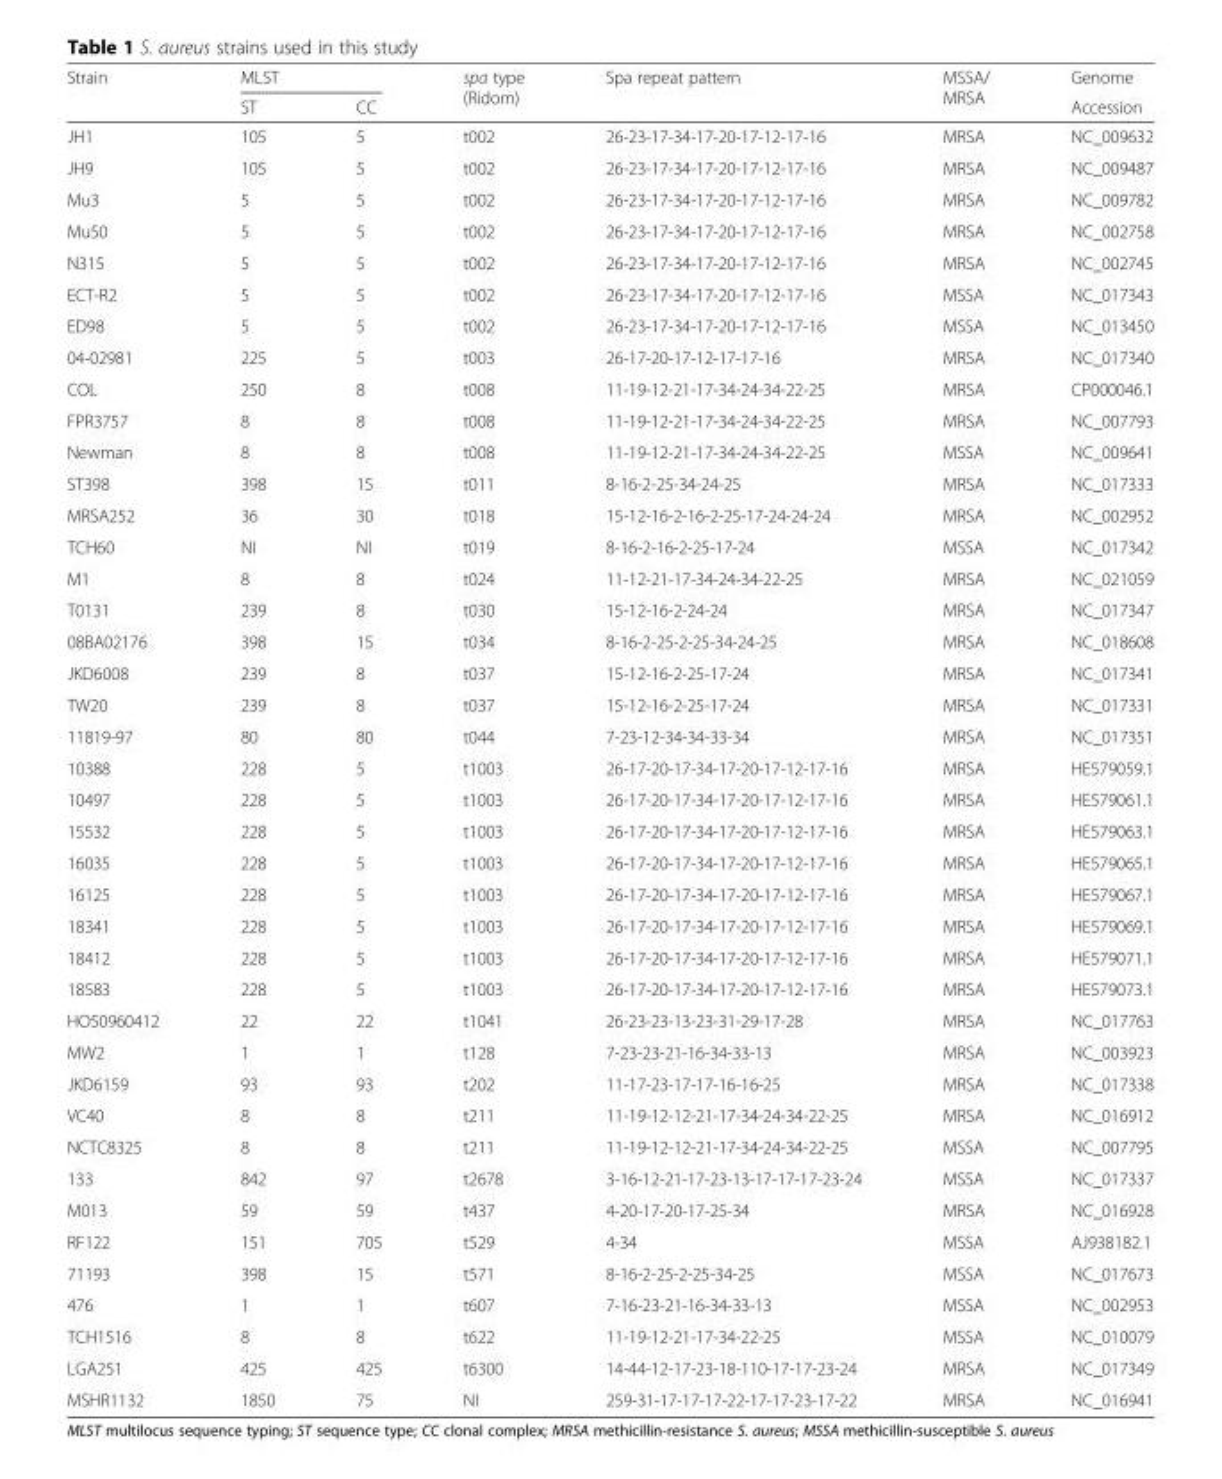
<table><thead><tr><td rowspan="2">Strain</td><td colspan="2">MLST</td><td rowspan="2">spa type (Ridom)</td><td rowspan="2">Spa repeat pattern</td><td rowspan="2">MSSA/ MRSA</td><td rowspan="2">Genome Accession</td></tr><tr><td>ST</td><td>CC</td></tr></thead><tbody><tr><td>JH1</td><td>105</td><td>5</td><td>t002</td><td>26-23-17-34-17-20-17-12-17-16</td><td>MRSA</td><td>NC_009632</td></tr><tr><td>JH9</td><td>105</td><td>5</td><td>t002</td><td>26-23-17-34-17-20-17-12-17-16</td><td>MRSA</td><td>NC_009487</td></tr><tr><td>Mu3</td><td>5</td><td>5</td><td>t002</td><td>26-23-17-34-17-20-17-12-17-16</td><td>MRSA</td><td>NC_009782</td></tr><tr><td>Mu50</td><td>5</td><td>5</td><td>t002</td><td>26-23-17-34-17-20-17-12-17-16</td><td>MRSA</td><td>NC_002758</td></tr><tr><td>N315</td><td>5</td><td>5</td><td>t002</td><td>26-23-17-34-17-20-17-12-17-16</td><td>MRSA</td><td>NC_002745</td></tr><tr><td>ECT-R2</td><td>5</td><td>5</td><td>t002</td><td>26-23-17-34-17-20-17-12-17-16</td><td>MSSA</td><td>NC_017343</td></tr><tr><td>ED98</td><td>5</td><td>5</td><td>t002</td><td>26-23-17-34-17-20-17-12-17-16</td><td>MSSA</td><td>NC_013450</td></tr><tr><td>04-02981</td><td>225</td><td>5</td><td>t003</td><td>26-17-20-17-12-17-17-16</td><td>MRSA</td><td>NC_017340</td></tr><tr><td>COL</td><td>250</td><td>8</td><td>t008</td><td>11-19-12-21-17-34-24-34-22-25</td><td>MRSA</td><td>CP000046.1</td></tr><tr><td>FPR3757</td><td>8</td><td>8</td><td>t008</td><td>11-19-12-21-17-34-24-34-22-25</td><td>MRSA</td><td>NC_007793</td></tr><tr><td>Newman</td><td>8</td><td>8</td><td>t008</td><td>11-19-12-21-17-34-24-34-22-25</td><td>MSSA</td><td>NC_009641</td></tr><tr><td>ST398</td><td>398</td><td>15</td><td>t011</td><td>8-16-2-25-34-24-25</td><td>MRSA</td><td>NC_017333</td></tr><tr><td>MRSA252</td><td>36</td><td>30</td><td>t018</td><td>15-12-16-2-16-2-25-17-24-24-24</td><td>MRSA</td><td>NC_002952</td></tr><tr><td>TCH60</td><td>NI</td><td>NI</td><td>t019</td><td>8-16-2-16-2-25-17-24</td><td>MSSA</td><td>NC_017342</td></tr><tr><td>M1</td><td>8</td><td>8</td><td>t024</td><td>11-12-21-17-34-24-34-22-25</td><td>MRSA</td><td>NC_021059</td></tr><tr><td>T0131</td><td>239</td><td>8</td><td>t030</td><td>15-12-16-2-24-24</td><td>MRSA</td><td>NC_017347</td></tr><tr><td>08BA02176</td><td>398</td><td>15</td><td>t034</td><td>8-16-2-25-2-25-34-24-25</td><td>MRSA</td><td>NC_018608</td></tr><tr><td>JKD6008</td><td>239</td><td>8</td><td>t037</td><td>15-12-16-2-25-17-24</td><td>MRSA</td><td>NC_017341</td></tr><tr><td>TW20</td><td>239</td><td>8</td><td>t037</td><td>15-12-16-2-25-17-24</td><td>MRSA</td><td>NC_017331</td></tr><tr><td>11819-97</td><td>80</td><td>80</td><td>t044</td><td>7-23-12-34-34-33-34</td><td>MRSA</td><td>NC_017351</td></tr><tr><td>10388</td><td>228</td><td>5</td><td>t1003</td><td>26-17-20-17-34-17-20-17-12-17-16</td><td>MRSA</td><td>HE579059.1</td></tr><tr><td>10497</td><td>228</td><td>5</td><td>t1003</td><td>26-17-20-17-34-17-20-17-12-17-16</td><td>MRSA</td><td>HE579061.1</td></tr><tr><td>15532</td><td>228</td><td>5</td><td>t1003</td><td>26-17-20-17-34-17-20-17-12-17-16</td><td>MRSA</td><td>HE579063.1</td></tr><tr><td>16035</td><td>228</td><td>5</td><td>t1003</td><td>26-17-20-17-34-17-20-17-12-17-16</td><td>MRSA</td><td>HE579065.1</td></tr><tr><td>16125</td><td>228</td><td>5</td><td>t1003</td><td>26-17-20-17-34-17-20-17-12-17-16</td><td>MRSA</td><td>HE579067.1</td></tr><tr><td>18341</td><td>228</td><td>5</td><td>t1003</td><td>26-17-20-17-34-17-20-17-12-17-16</td><td>MRSA</td><td>HE579069.1</td></tr><tr><td>18412</td><td>228</td><td>5</td><td>t1003</td><td>26-17-20-17-34-17-20-17-12-17-16</td><td>MRSA</td><td>HE579071.1</td></tr><tr><td>18583</td><td>228</td><td>5</td><td>t1003</td><td>26-17-20-17-34-17-20-17-12-17-16</td><td>MRSA</td><td>HE579073.1</td></tr><tr><td>HO50960412</td><td>22</td><td>22</td><td>t1041</td><td>26-23-23-13-23-31-29-17-28</td><td>MRSA</td><td>NC_017763</td></tr><tr><td>MW2</td><td>1</td><td>1</td><td>t128</td><td>7-23-23-21-16-34-33-13</td><td>MRSA</td><td>NC_003923</td></tr><tr><td>JKD6159</td><td>93</td><td>93</td><td>t202</td><td>11-17-23-17-17-16-16-25</td><td>MRSA</td><td>NC_017338</td></tr><tr><td>VC40</td><td>8</td><td>8</td><td>t211</td><td>11-19-12-12-21-17-34-24-34-22-25</td><td>MRSA</td><td>NC_016912</td></tr><tr><td>NCTC8325</td><td>8</td><td>8</td><td>t211</td><td>11-19-12-12-21-17-34-24-34-22-25</td><td>MSSA</td><td>NC_007795</td></tr><tr><td>133</td><td>842</td><td>97</td><td>t2678</td><td>3-16-12-21-17-23-13-17-17-17-23-24</td><td>MSSA</td><td>NC_017337</td></tr><tr><td>M013</td><td>59</td><td>59</td><td>t437</td><td>4-20-17-20-17-25-34</td><td>MRSA</td><td>NC_016928</td></tr><tr><td>RF122</td><td>151</td><td>705</td><td>t529</td><td>4-34</td><td>MSSA</td><td>AJ938182.1</td></tr><tr><td>71193</td><td>398</td><td>15</td><td>t571</td><td>8-16-2-25-2-25-34-25</td><td>MSSA</td><td>NC_017673</td></tr><tr><td>476</td><td>1</td><td>1</td><td>t607</td><td>7-16-23-21-16-34-33-13</td><td>MSSA</td><td>NC_002953</td></tr><tr><td>TCH1516</td><td>8</td><td>8</td><td>t622</td><td>11-19-12-21-17-34-22-25</td><td>MSSA</td><td>NC_010079</td></tr><tr><td>LGA251</td><td>425</td><td>425</td><td>t6300</td><td>14-44-12-17-23-18-110-17-17-23-24</td><td>MRSA</td><td>NC_017349</td></tr><tr><td>MSHR1132</td><td>1850</td><td>75</td><td>NI</td><td>259-31-17-17-17-22-17-17-23-17-22</td><td>MRSA</td><td>NC_016941</td></tr></tbody></table>